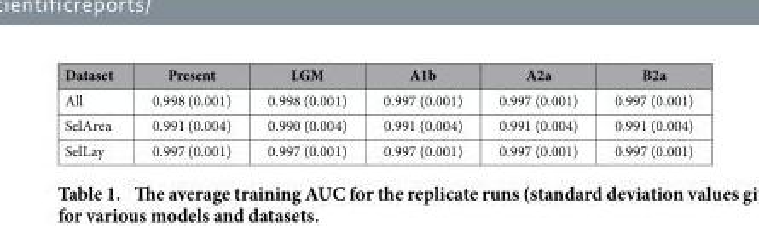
<table><thead><tr><td>Dataset</td><td>Present</td><td>LGM</td><td>A1b</td><td>A2a</td><td>B2a</td></tr></thead><tbody><tr><td>All</td><td>0.998 (0.001)</td><td>0.998 (0.001)</td><td>0.997 (0.001)</td><td>0.997 (0.001)</td><td>0.997 (0.001)</td></tr><tr><td>SelArea</td><td>0.991 (0.004)</td><td>0.990 (0.004)</td><td>0.991 (0.004)</td><td>0.991 (0.004)</td><td>0.991 (0.004)</td></tr><tr><td>SelLay</td><td>0.997 (0.001)</td><td>0.997 (0.001)</td><td>0.997 (0.001)</td><td>0.997 (0.001)</td><td>0.997 (0.001)</td></tr></tbody></table>